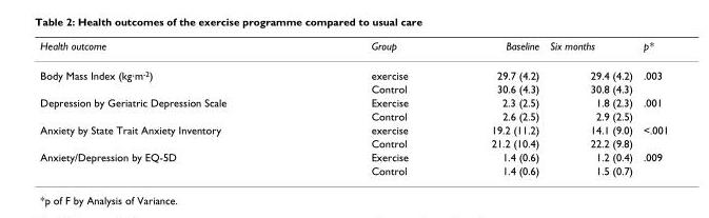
<table><thead><tr><td>Health outcome</td><td>Group</td><td>Baseline</td><td>Six months</td><td>p*</td></tr></thead><tbody><tr><td rowspan="2">Body Mass Index (kg·m<sup>-2</sup>)</td><td>exercise</td><td>29.7 (4.2)</td><td>29.4 (4.2)</td><td>.003</td></tr><tr><td>Control</td><td>30.6 (4.3)</td><td>30.8 (4.3)</td><td></td></tr><tr><td rowspan="2">Depression by Geriatric Depression Scale</td><td>Exercise</td><td>2.3 (2.5)</td><td>1.8 (2.3)</td><td>.001</td></tr><tr><td>Control</td><td>2.6 (2.5)</td><td>2.9 (2.5)</td><td></td></tr><tr><td rowspan="2">Anxiety by State Trait Anxiety Inventory</td><td>exercise</td><td>19.2 (11.2)</td><td>14.1 (9.0)</td><td>&lt;.001</td></tr><tr><td>Control</td><td>21.2 (10.4)</td><td>22.2 (9.8)</td><td></td></tr><tr><td rowspan="2">Anxiety/Depression by EQ-5D</td><td>Exercise</td><td>1.4 (0.6)</td><td>1.2 (0.4)</td><td>.009</td></tr><tr><td>Control</td><td>1.4 (0.6)</td><td>1.5 (0.7)</td><td></td></tr></tbody></table>